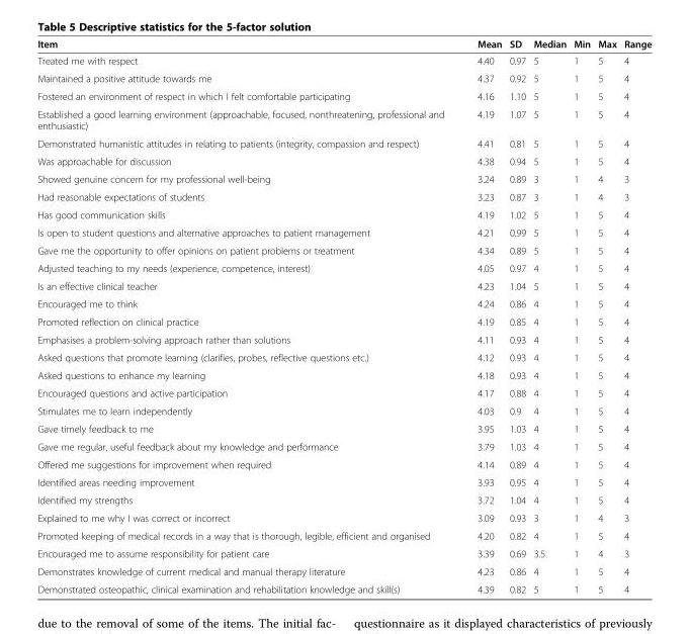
<table><thead><tr><td>Item</td><td>Mean</td><td>SD</td><td>Median</td><td>Min</td><td>Max</td><td>Range</td></tr></thead><tbody><tr><td>Treated me with respect</td><td>4.40</td><td>0.97</td><td>5</td><td>1</td><td>5</td><td>4</td></tr><tr><td>Maintained a positive attitude towards me</td><td>4.37</td><td>0.92</td><td>5</td><td>1</td><td>5</td><td>4</td></tr><tr><td>Fostered an environment of respect in which I felt comfortable participating</td><td>4.16</td><td>1.10</td><td>5</td><td>1</td><td>5</td><td>4</td></tr><tr><td>Established a good learning environment (approachable, focused, nonthreatening, professional and enthusiastic)</td><td>4.19</td><td>1.07</td><td>5</td><td>1</td><td>5</td><td>4</td></tr><tr><td>Demonstrated humanistic attitudes in relating to patients (integrity, compassion and respect)</td><td>4.41</td><td>0.81</td><td>5</td><td>1</td><td>5</td><td>4</td></tr><tr><td>Was approachable for discussion</td><td>4.38</td><td>0.94</td><td>5</td><td>1</td><td>5</td><td>4</td></tr><tr><td>Showed genuine concern for my professional well-being</td><td>3.24</td><td>0.89</td><td>3</td><td>1</td><td>4</td><td>3</td></tr><tr><td>Had reasonable expectations of students</td><td>3.23</td><td>0.87</td><td>3</td><td>1</td><td>4</td><td>3</td></tr><tr><td>Has good communication skills</td><td>4.19</td><td>1.02</td><td>5</td><td>1</td><td>5</td><td>4</td></tr><tr><td>Is open to student questions and alternative approaches to patient management</td><td>4.21</td><td>0.99</td><td>5</td><td>1</td><td>5</td><td>4</td></tr><tr><td>Gave me the opportunity to offer opinions on patient problems or treatment</td><td>4.34</td><td>0.89</td><td>5</td><td>1</td><td>5</td><td>4</td></tr><tr><td>Adjusted teaching to my needs (experience, competence, interest)</td><td>4.05</td><td>0.97</td><td>4</td><td>1</td><td>5</td><td>4</td></tr><tr><td>Is an effective clinical teacher</td><td>4.23</td><td>1.04</td><td>5</td><td>1</td><td>5</td><td>4</td></tr><tr><td>Encouraged me to think</td><td>4.24</td><td>0.86</td><td>4</td><td>1</td><td>5</td><td>4</td></tr><tr><td>Promoted reflection on clinical practice</td><td>4.19</td><td>0.85</td><td>4</td><td>1</td><td>5</td><td>4</td></tr><tr><td>Emphasises a problem-solving approach rather than solutions</td><td>4.11</td><td>0.93</td><td>4</td><td>1</td><td>5</td><td>4</td></tr><tr><td>Asked questions that promote learning (clarifies, probes, reflective questions etc.)</td><td>4.12</td><td>0.93</td><td>4</td><td>1</td><td>5</td><td>4</td></tr><tr><td>Asked questions to enhance my learning</td><td>4.18</td><td>0.93</td><td>4</td><td>1</td><td>5</td><td>4</td></tr><tr><td>Encouraged questions and active participation</td><td>4.17</td><td>0.88</td><td>4</td><td>1</td><td>5</td><td>4</td></tr><tr><td>Stimulates me to learn independently</td><td>4.03</td><td>0.9</td><td>4</td><td>1</td><td>5</td><td>4</td></tr><tr><td>Gave timely feedback to me</td><td>3.95</td><td>1.03</td><td>4</td><td>1</td><td>5</td><td>4</td></tr><tr><td>Gave me regular, useful feedback about my knowledge and performance</td><td>3.79</td><td>1.03</td><td>4</td><td>1</td><td>5</td><td>4</td></tr><tr><td>Offered me suggestions for improvement when required</td><td>4.14</td><td>0.89</td><td>4</td><td>1</td><td>5</td><td>4</td></tr><tr><td>Identified areas needing improvement</td><td>3.93</td><td>0.95</td><td>4</td><td>1</td><td>5</td><td>4</td></tr><tr><td>Identified my strengths</td><td>3.72</td><td>1.04</td><td>4</td><td>1</td><td>5</td><td>4</td></tr><tr><td>Explained to me why I was correct or incorrect</td><td>3.09</td><td>0.93</td><td>3</td><td>1</td><td>4</td><td>3</td></tr><tr><td>Promoted keeping of medical records in a way that is thorough, legible, efficient and organised</td><td>4.20</td><td>0.82</td><td>4</td><td>1</td><td>5</td><td>4</td></tr><tr><td>Encouraged me to assume responsibility for patient care</td><td>3.39</td><td>0.69</td><td>3.5</td><td>1</td><td>4</td><td>3</td></tr><tr><td>Demonstrates knowledge of current medical and manual therapy literature</td><td>4.23</td><td>0.86</td><td>4</td><td>1</td><td>5</td><td>4</td></tr><tr><td>Demonstrated osteopathic, clinical examination and rehabilitation knowledge and skill(s)</td><td>4.39</td><td>0.82</td><td>5</td><td>1</td><td>5</td><td>4</td></tr></tbody></table>